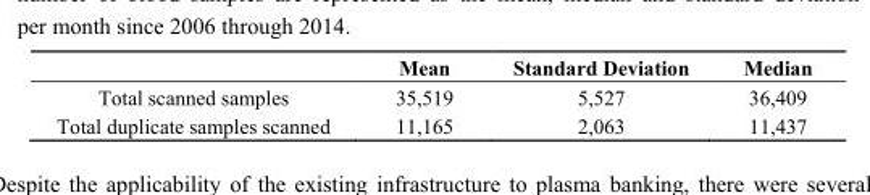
<table><thead><tr><td></td><td>Mean</td><td>Standard Deviation</td><td>Median</td></tr></thead><tbody><tr><td>Total scanned samples</td><td>35,519</td><td>5,527</td><td>36,409</td></tr><tr><td>Total duplicate samples scanned</td><td>11,165</td><td>2,063</td><td>11,437</td></tr></tbody></table>